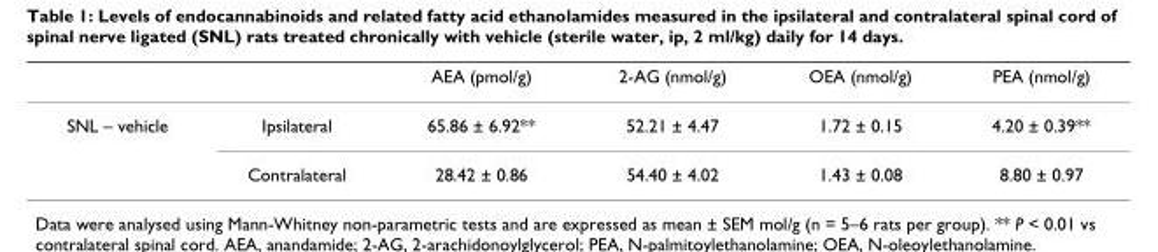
<table><thead><tr><td></td><td></td><td>AEA (pmol/g)</td><td>2-AG (nmol/g)</td><td>OEA (nmol/g)</td><td>PEA (nmol/g)</td></tr></thead><tbody><tr><td rowspan="2">SNL – vehicle</td><td>Ipsilateral</td><td>65.86 ± 6.92**</td><td>52.21 ± 4.47</td><td>1.72 ± 0.15</td><td>4.20 ± 0.39**</td></tr><tr><td>Contralateral</td><td>28.42 ± 0.86</td><td>54.40 ± 4.02</td><td>1.43 ± 0.08</td><td>8.80 ± 0.97</td></tr></tbody></table>